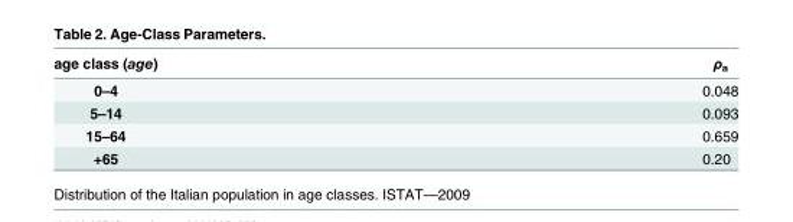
<table><thead><tr><td>age class (age)</td><td>ρ<sub>a</sub></td></tr></thead><tbody><tr><td>0–4</td><td>0.048</td></tr><tr><td>5–14</td><td>0.093</td></tr><tr><td>15–64</td><td>0.659</td></tr><tr><td>+65</td><td>0.20</td></tr></tbody></table>